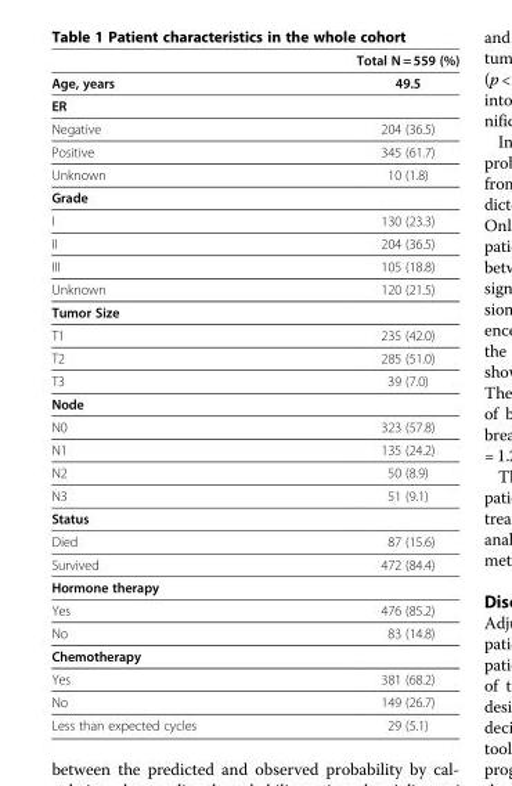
<table><thead><tr><td rowspan="2">Age, years</td><td rowspan="2">Total N = 559 (%) 49.5</td></tr><tr></tr></thead><tbody><tr><td colspan="2">ER</td></tr><tr><td>Negative</td><td>204 (36.5)</td></tr><tr><td>Positive</td><td>345 (61.7)</td></tr><tr><td>Unknown</td><td>10 (1.8)</td></tr><tr><td colspan="2">Grade</td></tr><tr><td>I</td><td>130 (23.3)</td></tr><tr><td>II</td><td>204 (36.5)</td></tr><tr><td>III</td><td>105 (18.8)</td></tr><tr><td>Unknown</td><td>120 (21.5)</td></tr><tr><td colspan="2">Tumor Size</td></tr><tr><td>T1</td><td>235 (42.0)</td></tr><tr><td>T2</td><td>285 (51.0)</td></tr><tr><td>T3</td><td>39 (7.0)</td></tr><tr><td colspan="2">Node</td></tr><tr><td>N0</td><td>323 (57.8)</td></tr><tr><td>N1</td><td>135 (24.2)</td></tr><tr><td>N2</td><td>50 (8.9)</td></tr><tr><td>N3</td><td>51 (9.1)</td></tr><tr><td colspan="2">Status</td></tr><tr><td>Died</td><td>87 (15.6)</td></tr><tr><td>Survived</td><td>472 (84.4)</td></tr><tr><td colspan="2">Hormone therapy</td></tr><tr><td>Yes</td><td>476 (85.2)</td></tr><tr><td>No</td><td>83 (14.8)</td></tr><tr><td colspan="2">Chemotherapy</td></tr><tr><td>Yes</td><td>381 (68.2)</td></tr><tr><td>No</td><td>149 (26.7)</td></tr><tr><td>Less than expected cycles</td><td>29 (5.1)</td></tr></tbody></table>